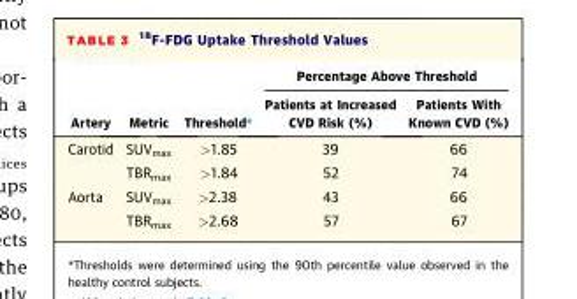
<table><thead><tr><td rowspan="2">Artery</td><td rowspan="2">Metric</td><td rowspan="2">Threshold*</td><td colspan="2">Percentage Above Threshold</td></tr><tr><td>Patients at Increased CVD Risk (%)</td><td>Patients With Known CVD (%)</td></tr></thead><tbody><tr><td rowspan="2">Carotid</td><td>SUV<sub>max</sub></td><td>&gt;1.85</td><td>39</td><td>66</td></tr><tr><td>TBR<sub>max</sub></td><td>&gt;1.84</td><td>52</td><td>74</td></tr><tr><td rowspan="2">Aorta</td><td>SUV<sub>max</sub></td><td>&gt;2.38</td><td>43</td><td>66</td></tr><tr><td>TBR<sub>max</sub></td><td>&gt;2.68</td><td>57</td><td>67</td></tr></tbody></table>